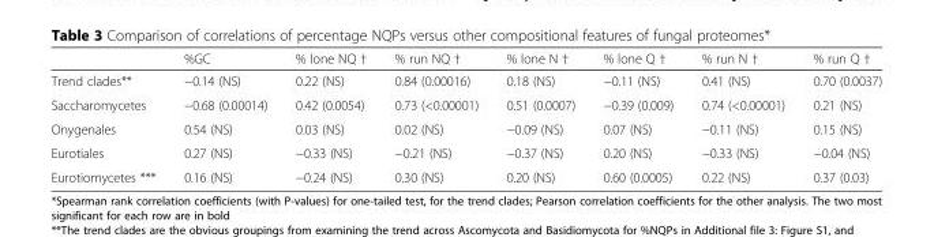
<table><thead><tr><td></td><td>%GC</td><td>% lone NQ †</td><td>% run NQ †</td><td>% lone N †</td><td>% lone Q †</td><td>% run N †</td><td>% run Q †</td></tr></thead><tbody><tr><td>Trend clades**</td><td>−0.14 (NS)</td><td>0.22 (NS)</td><td>0.84 (0.00016)</td><td>0.18 (NS)</td><td>−0.11 (NS)</td><td>0.41 (NS)</td><td>0.70 (0.0037)</td></tr><tr><td>Saccharomycetes</td><td>−0.68 (0.00014)</td><td>0.42 (0.0054)</td><td>0.73 (&lt;0.00001)</td><td>0.51 (0.0007)</td><td>−0.39 (0.009)</td><td>0.74 (&lt;0.00001)</td><td>0.21 (NS)</td></tr><tr><td>Onygenales</td><td>0.54 (NS)</td><td>0.03 (NS)</td><td>0.02 (NS)</td><td>−0.09 (NS)</td><td>0.07 (NS)</td><td>−0.11 (NS)</td><td>0.15 (NS)</td></tr><tr><td>Eurotiales</td><td>0.27 (NS)</td><td>−0.33 (NS)</td><td>−0.21 (NS)</td><td>−0.37 (NS)</td><td>0.20 (NS)</td><td>−0.33 (NS)</td><td>−0.04 (NS)</td></tr><tr><td>Eurotiomycetes ***</td><td>0.16 (NS)</td><td>−0.24 (NS)</td><td>0.30 (NS)</td><td>0.20 (NS)</td><td>0.60 (0.0005)</td><td>0.22 (NS)</td><td>0.37 (0.03)</td></tr></tbody></table>